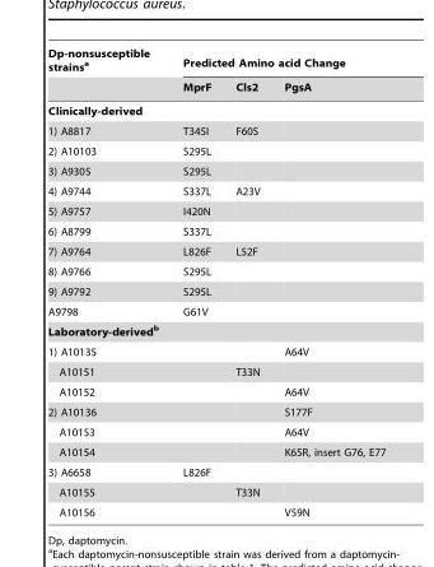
<table><thead><tr><td rowspan="2">Dp-nonsusceptible strains<sup>a</sup></td><td colspan="3">Predicted Amino acid Change</td></tr><tr><td>MprF</td><td>Cls2</td><td>PgsA</td></tr></thead><tbody><tr><td colspan="4">Clinically-derived</td></tr><tr><td>1) A8817</td><td>T345I</td><td>F60S</td><td></td></tr><tr><td>2) A10103</td><td>S295L</td><td></td><td></td></tr><tr><td>3) A9305</td><td>S295L</td><td></td><td></td></tr><tr><td>4) A9744</td><td>S337L</td><td>A23V</td><td></td></tr><tr><td>5) A9757</td><td>I420N</td><td></td><td></td></tr><tr><td>6) A8799</td><td>S337L</td><td></td><td></td></tr><tr><td>7) A9764</td><td>L826F</td><td>L52F</td><td></td></tr><tr><td>8) A9766</td><td>S295L</td><td></td><td></td></tr><tr><td>9) A9792</td><td>S295L</td><td></td><td></td></tr><tr><td>A9798</td><td>G61V</td><td></td><td></td></tr><tr><td colspan="4">Laboratory-derivedb</td></tr><tr><td>1) A10135</td><td></td><td></td><td>A64V</td></tr><tr><td>A10151</td><td></td><td>T33N</td><td></td></tr><tr><td>A10152</td><td></td><td></td><td>A64V</td></tr><tr><td>2) A10136</td><td></td><td></td><td>S177F</td></tr><tr><td>A10153</td><td></td><td></td><td>A64V</td></tr><tr><td>A10154</td><td></td><td></td><td>K65R, insert G76, E77</td></tr><tr><td>3) A6658</td><td>L826F</td><td></td><td></td></tr><tr><td>A10155</td><td></td><td>T33N</td><td></td></tr><tr><td>A10156</td><td></td><td></td><td>V59N</td></tr></tbody></table>